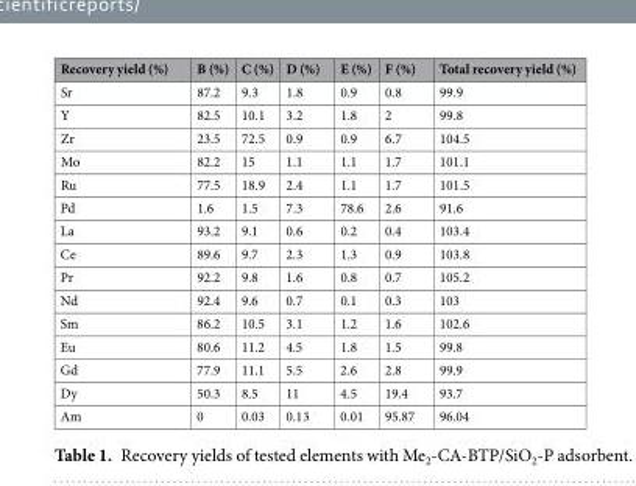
<table><thead><tr><td>Recovery yield (%)</td><td>B (%)</td><td>C (%)</td><td>D (%)</td><td>E (%)</td><td>F (%)</td><td>Total recovery yield (%)</td></tr></thead><tbody><tr><td>Sr</td><td>87.2</td><td>9.3</td><td>1.8</td><td>0.9</td><td>0.8</td><td>99.9</td></tr><tr><td>Y</td><td>82.5</td><td>10.1</td><td>3.2</td><td>1.8</td><td>2</td><td>99.8</td></tr><tr><td>Zr</td><td>23.5</td><td>72.5</td><td>0.9</td><td>0.9</td><td>6.7</td><td>104.5</td></tr><tr><td>Mo</td><td>82.2</td><td>15</td><td>1.1</td><td>1.1</td><td>1.7</td><td>101.1</td></tr><tr><td>Ru</td><td>77.5</td><td>18.9</td><td>2.4</td><td>1.1</td><td>1.7</td><td>101.5</td></tr><tr><td>Pd</td><td>1.6</td><td>1.5</td><td>7.3</td><td>78.6</td><td>2.6</td><td>91.6</td></tr><tr><td>La</td><td>93.2</td><td>9.1</td><td>0.6</td><td>0.2</td><td>0.4</td><td>103.4</td></tr><tr><td>Ce</td><td>89.6</td><td>9.7</td><td>2.3</td><td>1.3</td><td>0.9</td><td>103.8</td></tr><tr><td>Pr</td><td>92.2</td><td>9.8</td><td>1.6</td><td>0.8</td><td>0.7</td><td>105.2</td></tr><tr><td>Nd</td><td>92.4</td><td>9.6</td><td>0.7</td><td>0.1</td><td>0.3</td><td>103</td></tr><tr><td>Sm</td><td>86.2</td><td>10.5</td><td>3.1</td><td>1.2</td><td>1.6</td><td>102.6</td></tr><tr><td>Eu</td><td>80.6</td><td>11.2</td><td>4.5</td><td>1.8</td><td>1.5</td><td>99.8</td></tr><tr><td>Gd</td><td>77.9</td><td>11.1</td><td>5.5</td><td>2.6</td><td>2.8</td><td>99.9</td></tr><tr><td>Dy</td><td>50.3</td><td>8.5</td><td>11</td><td>4.5</td><td>19.4</td><td>93.7</td></tr><tr><td>Am</td><td>0</td><td>0.03</td><td>0.13</td><td>0.01</td><td>95.87</td><td>96.04</td></tr></tbody></table>